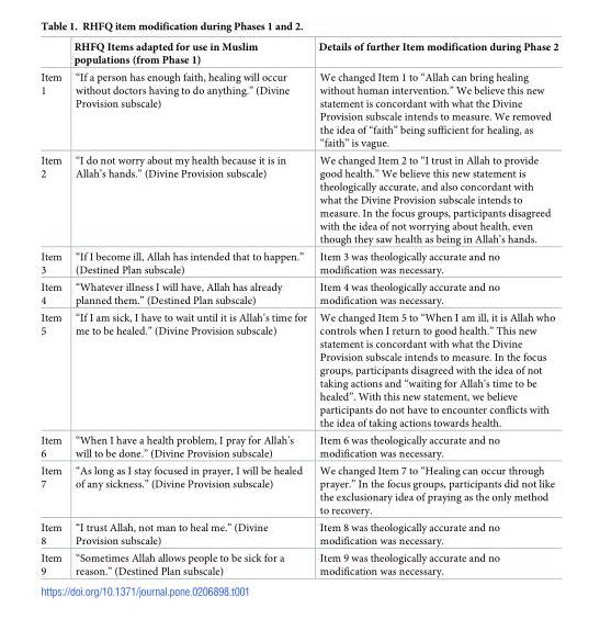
<table><thead><tr><td></td><td>RHFQ Items adapted for use in Muslim populations (from Phase 1)</td><td>Details of further Item modification during Phase 2</td></tr></thead><tbody><tr><td>Item 1</td><td>“If a person has enough faith, healing will occur without doctors having to do anything.” (Divine Provision subscale)</td><td>We changed Item 1 to “Allah can bring healing without human intervention.” We believe this new statement is concordant with what the Divine Provision subscale intends to measure. We removed the idea of “faith” being sufficient for healing, as “faith” is vague.</td></tr><tr><td>Item 2</td><td>“I do not worry about my health because it is in Allah’s hands.” (Divine Provision subscale)</td><td>We changed Item 2 to “I trust in Allah to provide good health.” We believe this new statement is theologically accurate, and also concordant with what the Divine Provision subscale intends to measure. In the focus groups, participants disagreed with the idea of not worrying about health, even though they saw health as being in Allah’s hands.</td></tr><tr><td>Item 3</td><td>“If I become ill, Allah has intended that to happen.” (Destined Plan subscale)</td><td>Item 3 was theologically accurate and no modification was necessary.</td></tr><tr><td>Item 4</td><td>“Whatever illness I will have, Allah has already planned them.” (Destined Plan subscale)</td><td>Item 4 was theologically accurate and no modification was necessary.</td></tr><tr><td>Item 5</td><td>“If I am sick, I have to wait until it is Allah’s time for me to be healed.” (Divine Provision subscale)</td><td>We changed Item 5 to “When I am ill, it is Allah who controls when I return to good health.” This new statement is concordant with what the Divine Provision subscale intends to measure. In the focus groups, participants disagreed with the idea of not taking actions and “waiting for Allah’s time to be healed”. With this new statement, we believe participants do not have to encounter conflicts with the idea of taking actions towards health.</td></tr><tr><td>Item 6</td><td>“When I have a health problem, I pray for Allah’s will to be done.” (Divine Provision subscale)</td><td>Item 6 was theologically accurate and no modification was necessary.</td></tr><tr><td>Item 7</td><td>“As long as I stay focused in prayer, I will be healed of any sickness.” (Divine Provision subscale)</td><td>We changed Item 7 to “Healing can occur through prayer.” In the focus groups, participants did not like the exclusionary idea of praying as the only method to recovery.</td></tr><tr><td>Item 8</td><td>“I trust Allah, not man to heal me.” (Divine Provision subscale)</td><td>Item 8 was theologically accurate and no modification was necessary.</td></tr><tr><td>Item 9</td><td>“Sometimes Allah allows people to be sick for a reason.” (Destined Plan subscale)</td><td>Item 9 was theologically accurate and no modification was necessary.</td></tr></tbody></table>